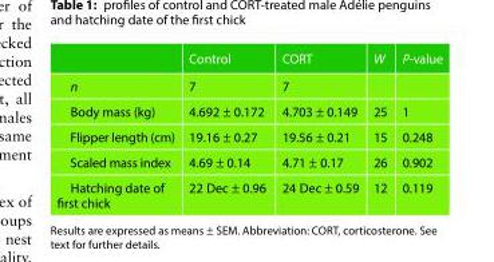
<table><thead><tr><td></td><td>Control</td><td>CORT</td><td>W</td><td>P-value</td></tr></thead><tbody><tr><td>n</td><td>7</td><td>7</td><td></td><td></td></tr><tr><td>Body mass (kg)</td><td>4.692 ± 0.172</td><td>4.703 ± 0.149</td><td>25</td><td>1</td></tr><tr><td>Flipper length (cm)</td><td>19.16 ± 0.27</td><td>19.56 ± 0.21</td><td>15</td><td>0.248</td></tr><tr><td>Scaled mass index</td><td>4.69 ± 0.14</td><td>4.71 ± 0.17</td><td>26</td><td>0.902</td></tr><tr><td>Hatching date of first chick</td><td>22 Dec ± 0.96</td><td>24 Dec ± 0.59</td><td>12</td><td>0.119</td></tr></tbody></table>